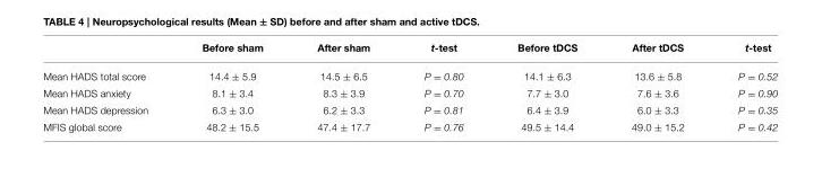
<table><thead><tr><td></td><td>Before sham</td><td>After sham</td><td>t-test</td><td>Before tDCS</td><td>After tDCS</td><td>t-test</td></tr></thead><tbody><tr><td>Mean HADS total score</td><td>14.4 ± 5.9</td><td>14.5 ± 6.5</td><td>P = 0.80</td><td>14.1 ± 6.3</td><td>13.6 ± 5.8</td><td>P = 0.52</td></tr><tr><td>Mean HADS anxiety</td><td>8.1 ± 3.4</td><td>8.3 ± 3.9</td><td>P = 0.70</td><td>7.7 ± 3.0</td><td>7.6 ± 3.6</td><td>P = 0.90</td></tr><tr><td>Mean HADS depression</td><td>6.3 ± 3.0</td><td>6.2 ± 3.3</td><td>P = 0.81</td><td>6.4 ± 3.9</td><td>6.0 ± 3.3</td><td>P = 0.35</td></tr><tr><td>MFIS global score</td><td>48.2 ± 15.5</td><td>47.4 ± 17.7</td><td>P = 0.76</td><td>49.5 ± 14.4</td><td>49.0 ± 15.2</td><td>P = 0.42</td></tr></tbody></table>